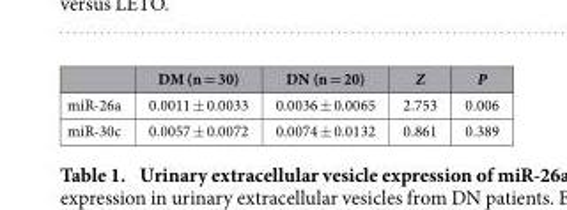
<table><thead><tr><td></td><td>DM (n = 30)</td><td>DN (n = 20)</td><td>Z</td><td>P</td></tr></thead><tbody><tr><td>miR-26a</td><td>0.0011 ± 0.0033</td><td>0.0036 ± 0.0065</td><td>2.753</td><td>0.006</td></tr><tr><td>miR-30c</td><td>0.0057 ± 0.0072</td><td>0.0074 ± 0.0132</td><td>0.861</td><td>0.389</td></tr></tbody></table>